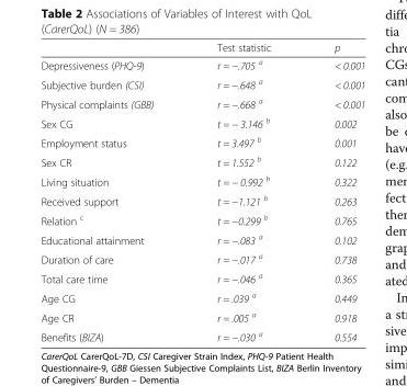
<table><thead><tr><td></td><td>Test statistic</td><td>p</td></tr></thead><tbody><tr><td>Depressiveness (PHQ-9)</td><td>r = −.705 <sup>a</sup></td><td>&lt; 0.001</td></tr><tr><td>Subjective burden (CSI)</td><td>r = −.648 <sup>a</sup></td><td>&lt; 0.001</td></tr><tr><td>Physical complaints (GBB)</td><td>r = −.668 <sup>a</sup></td><td>&lt; 0.001</td></tr><tr><td>Sex CG</td><td>t = − 3.146 <sup>b</sup></td><td>0.002</td></tr><tr><td>Employment status</td><td>t = 3.497 <sup>b</sup></td><td>0.001</td></tr><tr><td>Sex CR</td><td>t = 1.552 <sup>b</sup></td><td>0.122</td></tr><tr><td>Living situation</td><td>t = − 0.992 <sup>b</sup></td><td>0.322</td></tr><tr><td>Received support</td><td>t = −1.121 <sup>b</sup></td><td>0.263</td></tr><tr><td>Relation <sup>c</sup></td><td>t = −0.299 <sup>b</sup></td><td>0.765</td></tr><tr><td>Educational attainment</td><td>r = −.083 <sup>a</sup></td><td>0.102</td></tr><tr><td>Duration of care</td><td>r = −.017 <sup>a</sup></td><td>0.738</td></tr><tr><td>Total care time</td><td>r = −.046 <sup>a</sup></td><td>0.365</td></tr><tr><td>Age CG</td><td>r = .039 <sup>a</sup></td><td>0.449</td></tr><tr><td>Age CR</td><td>r = .005 <sup>a</sup></td><td>0.918</td></tr><tr><td>Benefits (BIZA)</td><td>r = −.030 <sup>a</sup></td><td>0.554</td></tr></tbody></table>